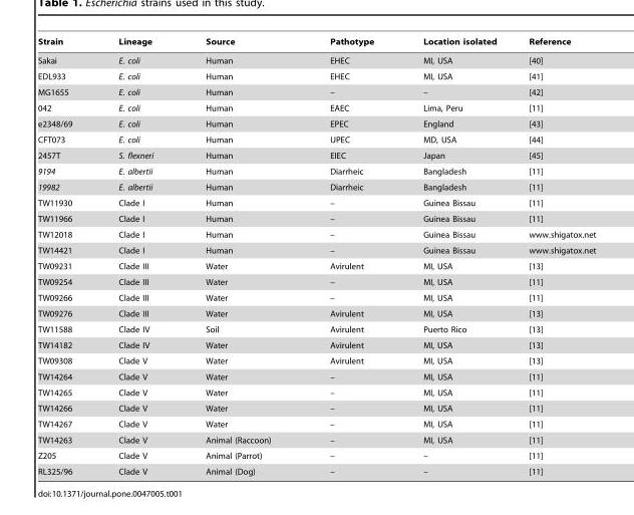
<table><thead><tr><td>Strain</td><td>Lineage</td><td>Source</td><td>Pathotype</td><td>Location isolated</td><td>Reference</td></tr></thead><tbody><tr><td>Sakai</td><td>E. coli</td><td>Human</td><td>EHEC</td><td>MI, USA</td><td>[40]</td></tr><tr><td>EDL933</td><td>E. coli</td><td>Human</td><td>EHEC</td><td>MI, USA</td><td>[41]</td></tr><tr><td>MG1655</td><td>E. coli</td><td>Human</td><td>–</td><td>–</td><td>[42]</td></tr><tr><td>042</td><td>E. coli</td><td>Human</td><td>EAEC</td><td>Lima, Peru</td><td>[11]</td></tr><tr><td>e2348/69</td><td>E. coli</td><td>Human</td><td>EPEC</td><td>England</td><td>[43]</td></tr><tr><td>CFT073</td><td>E. coli</td><td>Human</td><td>UPEC</td><td>MD, USA</td><td>[44]</td></tr><tr><td>2457T</td><td>S. flexneri</td><td>Human</td><td>EIEC</td><td>Japan</td><td>[45]</td></tr><tr><td>9194</td><td>E. albertii</td><td>Human</td><td>Diarrheic</td><td>Bangladesh</td><td>[11]</td></tr><tr><td>19982</td><td>E. albertii</td><td>Human</td><td>Diarrheic</td><td>Bangladesh</td><td>[11]</td></tr><tr><td>TW11930</td><td>Clade I</td><td>Human</td><td>–</td><td>Guinea Bissau</td><td>[11]</td></tr><tr><td>TW11966</td><td>Clade I</td><td>Human</td><td>–</td><td>Guinea Bissau</td><td>[11]</td></tr><tr><td>TW12018</td><td>Clade I</td><td>Human</td><td>–</td><td>Guinea Bissau</td><td>www.shigatox.net</td></tr><tr><td>TW14421</td><td>Clade I</td><td>Human</td><td>–</td><td>Guinea Bissau</td><td>www.shigatox.net</td></tr><tr><td>TW09231</td><td>Clade III</td><td>Water</td><td>Avirulent</td><td>MI, USA</td><td>[13]</td></tr><tr><td>TW09254</td><td>Clade III</td><td>Water</td><td>–</td><td>MI, USA</td><td>[11]</td></tr><tr><td>TW09266</td><td>Clade III</td><td>Water</td><td>–</td><td>MI, USA</td><td>[11]</td></tr><tr><td>TW09276</td><td>Clade III</td><td>Water</td><td>Avirulent</td><td>MI, USA</td><td>[13]</td></tr><tr><td>TW11588</td><td>Clade IV</td><td>Soil</td><td>Avirulent</td><td>Puerto Rico</td><td>[13]</td></tr><tr><td>TW14182</td><td>Clade IV</td><td>Water</td><td>Avirulent</td><td>MI, USA</td><td>[13]</td></tr><tr><td>TW09308</td><td>Clade V</td><td>Water</td><td>Avirulent</td><td>MI, USA</td><td>[13]</td></tr><tr><td>TW14264</td><td>Clade V</td><td>Water</td><td>–</td><td>MI, USA</td><td>[11]</td></tr><tr><td>TW14265</td><td>Clade V</td><td>Water</td><td>–</td><td>MI, USA</td><td>[11]</td></tr><tr><td>TW14266</td><td>Clade V</td><td>Water</td><td>–</td><td>MI, USA</td><td>[11]</td></tr><tr><td>TW14267</td><td>Clade V</td><td>Water</td><td>–</td><td>MI, USA</td><td>[11]</td></tr><tr><td>TW14263</td><td>Clade V</td><td>Animal (Raccoon)</td><td>–</td><td>MI, USA</td><td>[11]</td></tr><tr><td>Z205</td><td>Clade V</td><td>Animal (Parrot)</td><td>–</td><td>–</td><td>[11]</td></tr><tr><td>RL325/96</td><td>Clade V</td><td>Animal (Dog)</td><td>–</td><td>–</td><td>[11]</td></tr></tbody></table>